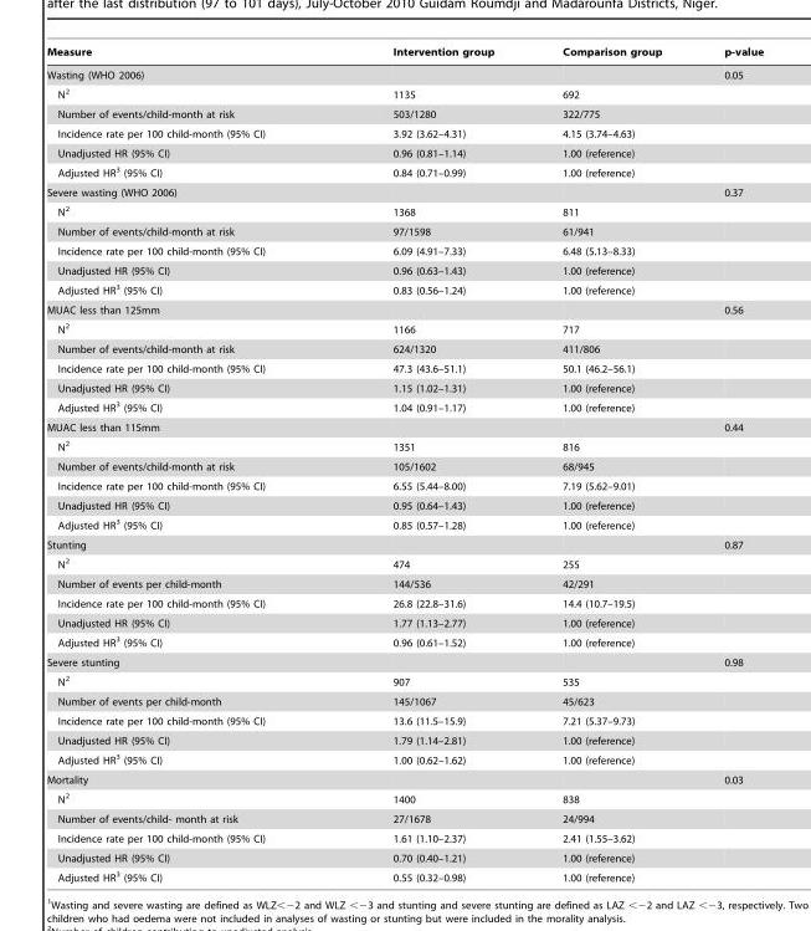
<table><thead><tr><td>Measure</td><td>Intervention group</td><td>Comparison group</td><td>p-value</td></tr></thead><tbody><tr><td>Wasting (WHO 2006)</td><td></td><td></td><td>0.05</td></tr><tr><td>N<sup>2</sup></td><td>1135</td><td>692</td><td></td></tr><tr><td>Number of events/child-month at risk</td><td>503/1280</td><td>322/775</td><td></td></tr><tr><td>Incidence rate per 100 child-month (95% CI)</td><td>3.92 (3.62–4.31)</td><td>4.15 (3.74–4.63)</td><td></td></tr><tr><td>Unadjusted HR (95% CI)</td><td>0.96 (0.81–1.14)</td><td>1.00 (reference)</td><td></td></tr><tr><td>Adjusted HR<sup>3</sup> (95% CI)</td><td>0.84 (0.71–0.99)</td><td>1.00 (reference)</td><td></td></tr><tr><td>Severe wasting (WHO 2006)</td><td></td><td></td><td>0.37</td></tr><tr><td>N<sup>2</sup></td><td>1368</td><td>811</td><td></td></tr><tr><td>Number of events/child-month at risk</td><td>97/1598</td><td>61/941</td><td></td></tr><tr><td>Incidence rate per 100 child-month (95% CI)</td><td>6.09 (4.91–7.33)</td><td>6.48 (5.13–8.33)</td><td></td></tr><tr><td>Unadjusted HR (95% CI)</td><td>0.96 (0.63–1.43)</td><td>1.00 (reference)</td><td></td></tr><tr><td>Adjusted HR<sup>3</sup> (95% CI)</td><td>0.83 (0.56–1.24)</td><td>1.00 (reference)</td><td></td></tr><tr><td>MUAC less than 125mm</td><td></td><td></td><td>0.56</td></tr><tr><td>N<sup>2</sup></td><td>1166</td><td>717</td><td></td></tr><tr><td>Number of events/child-month at risk</td><td>624/1320</td><td>411/806</td><td></td></tr><tr><td>Incidence rate per 100 child-month (95% CI)</td><td>47.3 (43.6–51.1)</td><td>50.1 (46.2–56.1)</td><td></td></tr><tr><td>Unadjusted HR (95% CI)</td><td>1.15 (1.02–1.31)</td><td>1.00 (reference)</td><td></td></tr><tr><td>Adjusted HR<sup>3</sup> (95% CI)</td><td>1.04 (0.91–1.17)</td><td>1.00 (reference)</td><td></td></tr><tr><td>MUAC less than 115mm</td><td></td><td></td><td>0.44</td></tr><tr><td>N<sup>2</sup></td><td>1351</td><td>816</td><td></td></tr><tr><td>Number of events/child-month at risk</td><td>105/1602</td><td>68/945</td><td></td></tr><tr><td>Incidence rate per 100 child-month (95% CI)</td><td>6.55 (5.44–8.00)</td><td>7.19 (5.62–9.01)</td><td></td></tr><tr><td>Unadjusted HR (95% CI)</td><td>0.95 (0.64–1.43)</td><td>1.00 (reference)</td><td></td></tr><tr><td>Adjusted HR<sup>3</sup> (95% CI)</td><td>0.85 (0.57–1.28)</td><td>1.00 (reference)</td><td></td></tr><tr><td>Stunting</td><td></td><td></td><td>0.87</td></tr><tr><td>N<sup>2</sup></td><td>474</td><td>255</td><td></td></tr><tr><td>Number of events per child-month</td><td>144/536</td><td>42/291</td><td></td></tr><tr><td>Incidence rate per 100 child-month (95% CI)</td><td>26.8 (22.8–31.6)</td><td>14.4 (10.7–19.5)</td><td></td></tr><tr><td>Unadjusted HR (95% CI)</td><td>1.77 (1.13–2.77)</td><td>1.00 (reference)</td><td></td></tr><tr><td>Adjusted HR<sup>3</sup> (95% CI)</td><td>0.96 (0.61–1.52)</td><td>1.00 (reference)</td><td></td></tr><tr><td>Severe stunting</td><td></td><td></td><td>0.98</td></tr><tr><td>N<sup>2</sup></td><td>907</td><td>535</td><td></td></tr><tr><td>Number of events per child-month</td><td>145/1067</td><td>45/623</td><td></td></tr><tr><td>Incidence rate per 100 child-month (95% CI)</td><td>13.6 (11.5–15.9)</td><td>7.21 (5.37–9.73)</td><td></td></tr><tr><td>Unadjusted HR (95% CI)</td><td>1.79 (1.14–2.81)</td><td>1.00 (reference)</td><td></td></tr><tr><td>Adjusted HR<sup>3</sup> (95% CI)</td><td>1.00 (0.62–1.62)</td><td>1.00 (reference)</td><td></td></tr><tr><td>Mortality</td><td></td><td></td><td>0.03</td></tr><tr><td>N<sup>2</sup></td><td>1400</td><td>838</td><td></td></tr><tr><td>Number of events/child- month at risk</td><td>27/1678</td><td>24/994</td><td></td></tr><tr><td>Incidence rate per 100 child-month (95% CI)</td><td>1.61 (1.10–2.37)</td><td>2.41 (1.55–3.62)</td><td></td></tr><tr><td>Unadjusted HR (95% CI)</td><td>0.70 (0.40–1.21)</td><td>1.00 (reference)</td><td></td></tr><tr><td>Adjusted HR<sup>3</sup> (95% CI)</td><td>0.55 (0.32–0.98)</td><td>1.00 (reference)</td><td></td></tr></tbody></table>